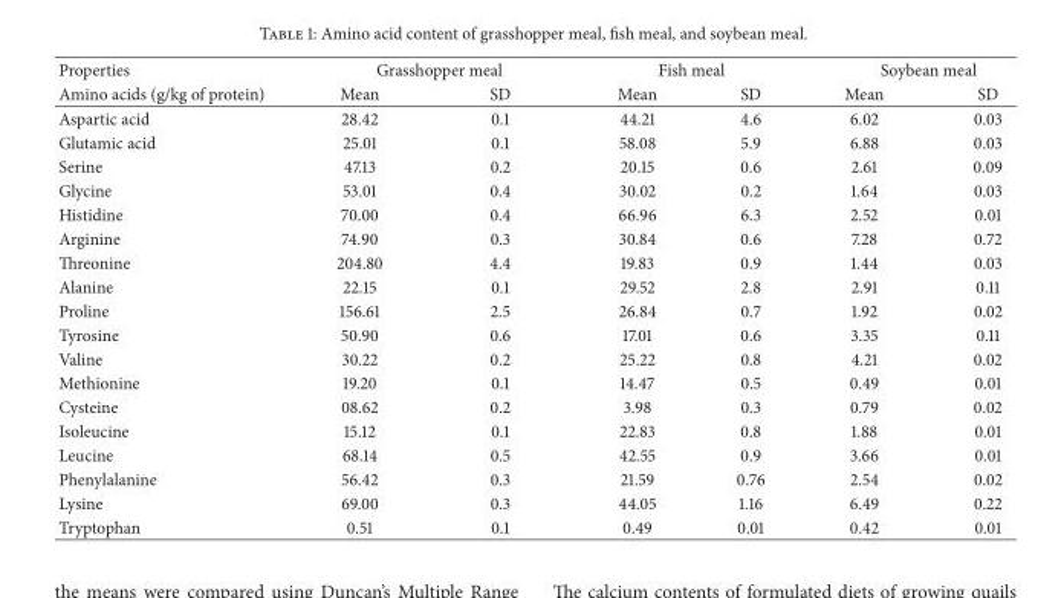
<table><thead><tr><td rowspan="2">Properties Amino acids (g/kg of protein)</td><td colspan="2">Grasshopper meal</td><td colspan="2">Fish meal</td><td colspan="2">Soybean meal</td></tr><tr><td>Mean</td><td>SD</td><td>Mean</td><td>SD</td><td>Mean</td><td>SD</td></tr></thead><tbody><tr><td>Aspartic acid</td><td>28.42</td><td>0.1</td><td>44.21</td><td>4.6</td><td>6.02</td><td>0.03</td></tr><tr><td>Glutamic acid</td><td>25.01</td><td>0.1</td><td>58.08</td><td>5.9</td><td>6.88</td><td>0.03</td></tr><tr><td>Serine</td><td>47.13</td><td>0.2</td><td>20.15</td><td>0.6</td><td>2.61</td><td>0.09</td></tr><tr><td>Glycine</td><td>53.01</td><td>0.4</td><td>30.02</td><td>0.2</td><td>1.64</td><td>0.03</td></tr><tr><td>Histidine</td><td>70.00</td><td>0.4</td><td>66.96</td><td>6.3</td><td>2.52</td><td>0.01</td></tr><tr><td>Arginine</td><td>74.90</td><td>0.3</td><td>30.84</td><td>0.6</td><td>7.28</td><td>0.72</td></tr><tr><td>Threonine</td><td>204.80</td><td>4.4</td><td>19.83</td><td>0.9</td><td>1.44</td><td>0.03</td></tr><tr><td>Alanine</td><td>22.15</td><td>0.1</td><td>29.52</td><td>2.8</td><td>2.91</td><td>0.11</td></tr><tr><td>Proline</td><td>156.61</td><td>2.5</td><td>26.84</td><td>0.7</td><td>1.92</td><td>0.02</td></tr><tr><td>Tyrosine</td><td>50.90</td><td>0.6</td><td>17.01</td><td>0.6</td><td>3.35</td><td>0.11</td></tr><tr><td>Valine</td><td>30.22</td><td>0.2</td><td>25.22</td><td>0.8</td><td>4.21</td><td>0.02</td></tr><tr><td>Methionine</td><td>19.20</td><td>0.1</td><td>14.47</td><td>0.5</td><td>0.49</td><td>0.01</td></tr><tr><td>Cysteine</td><td>08.62</td><td>0.2</td><td>3.98</td><td>0.3</td><td>0.79</td><td>0.02</td></tr><tr><td>Isoleucine</td><td>15.12</td><td>0.1</td><td>22.83</td><td>0.8</td><td>1.88</td><td>0.01</td></tr><tr><td>Leucine</td><td>68.14</td><td>0.5</td><td>42.55</td><td>0.9</td><td>3.66</td><td>0.01</td></tr><tr><td>Phenylalanine</td><td>56.42</td><td>0.3</td><td>21.59</td><td>0.76</td><td>2.54</td><td>0.02</td></tr><tr><td>Lysine</td><td>69.00</td><td>0.3</td><td>44.05</td><td>1.16</td><td>6.49</td><td>0.22</td></tr><tr><td>Tryptophan</td><td>0.51</td><td>0.1</td><td>0.49</td><td>0.01</td><td>0.42</td><td>0.01</td></tr></tbody></table>